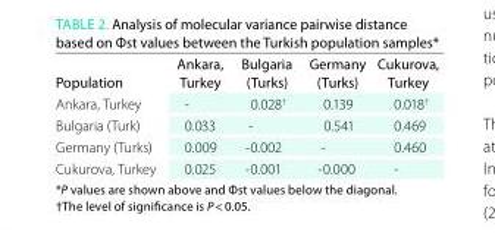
<table><thead><tr><td>Population</td><td>Ankara, Turkey</td><td>Bulgaria (Turks)</td><td>Germany (Turks)</td><td>Cukurova, Turkey</td></tr></thead><tbody><tr><td>Ankara, Turkey</td><td>-</td><td>0.028<sup>†</sup></td><td>0.139</td><td>0.018<sup>†</sup></td></tr><tr><td>Bulgaria (Turk)</td><td>0.033</td><td>-</td><td>0.541</td><td>0.469</td></tr><tr><td>Germany (Turks)</td><td>0.009</td><td>-0.002</td><td>-</td><td>0.460</td></tr><tr><td>Cukurova, Turkey</td><td>0.025</td><td>-0.001</td><td>-0.000</td><td>-</td></tr></tbody></table>